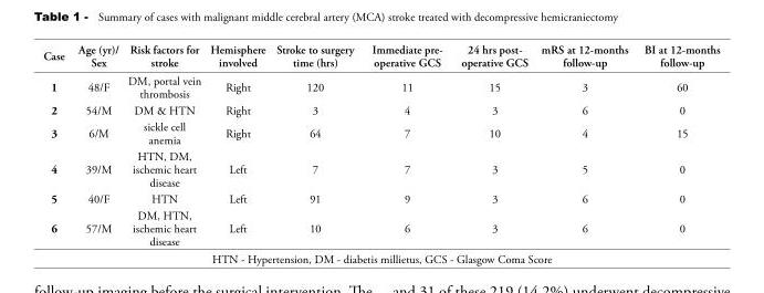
<table><thead><tr><td>Case</td><td>Age (yr)/ Sex</td><td>Risk factors for stroke</td><td>Hemisphere involved</td><td>Stroke to surgery time (hrs)</td><td>Immediate pre- operative GCS</td><td>24 hrs post- operative GCS</td><td>mRS at 12-months follow-up</td><td>BI at 12-months follow-up</td></tr></thead><tbody><tr><td>1</td><td>48/F</td><td>DM, portal vein thrombosis</td><td>Right</td><td>120</td><td>11</td><td>15</td><td>3</td><td>60</td></tr><tr><td>2</td><td>54/M</td><td>DM &amp; HTN</td><td>Right</td><td>3</td><td>4</td><td>3</td><td>6</td><td>0</td></tr><tr><td>3</td><td>6/M</td><td>sickle cell anemia</td><td>Right</td><td>64</td><td>7</td><td>10</td><td>4</td><td>15</td></tr><tr><td>4</td><td>39/M</td><td>HTN, DM, ischemic heart disease</td><td>Left</td><td>7</td><td>7</td><td>3</td><td>5</td><td>0</td></tr><tr><td>5</td><td>40/F</td><td>HTN</td><td>Left</td><td>91</td><td>9</td><td>3</td><td>6</td><td>0</td></tr><tr><td>6</td><td>57/M</td><td>DM, HTN, ischemic heart disease</td><td>Left</td><td>10</td><td>6</td><td>3</td><td>6</td><td>0</td></tr></tbody></table>